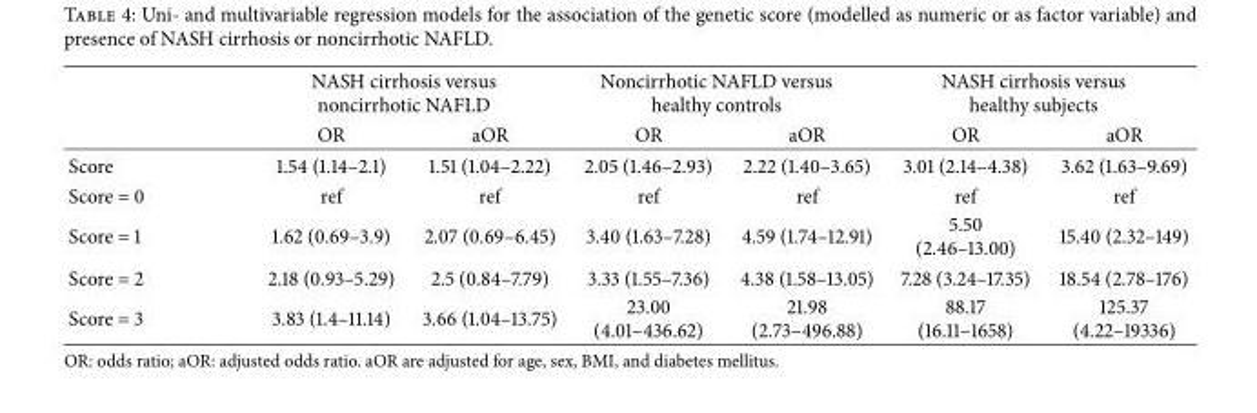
<table><thead><tr><td rowspan="2"></td><td colspan="2">NASH cirrhosis versus noncirrhotic NAFLD</td><td colspan="2">Noncirrhotic NAFLD versus healthy controls</td><td colspan="2">NASH cirrhosis versus healthy subjects</td></tr><tr><td>OR</td><td>aOR</td><td>OR</td><td>aOR</td><td>OR</td><td>aOR</td></tr></thead><tbody><tr><td>Score</td><td>1.54 (1.14–2.1)</td><td>1.51 (1.04–2.22)</td><td>2.05 (1.46–2.93)</td><td>2.22 (1.40–3.65)</td><td>3.01 (2.14–4.38)</td><td>3.62 (1.63–9.69)</td></tr><tr><td>Score = 0</td><td>ref</td><td>ref</td><td>ref</td><td>ref</td><td>ref</td><td>ref</td></tr><tr><td>Score = 1</td><td>1.62 (0.69–3.9)</td><td>2.07 (0.69–6.45)</td><td>3.40 (1.63–7.28)</td><td>4.59 (1.74–12.91)</td><td>5.50 (2.46–13.00)</td><td>15.40 (2.32–149)</td></tr><tr><td>Score = 2</td><td>2.18 (0.93–5.29)</td><td>2.5 (0.84–7.79)</td><td>3.33 (1.55–7.36)</td><td>4.38 (1.58–13.05)</td><td>7.28 (3.24–17.35)</td><td>18.54 (2.78–176)</td></tr><tr><td>Score = 3</td><td>3.83 (1.4–11.14)</td><td>3.66 (1.04–13.75)</td><td>23.00 (4.01–436.62)</td><td>21.98 (2.73–496.88)</td><td>88.17 (16.11–1658)</td><td>125.37 (4.22–19336)</td></tr></tbody></table>